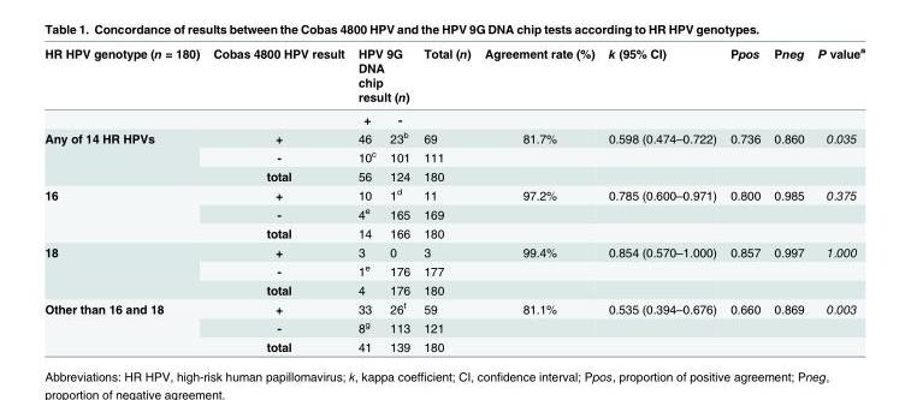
<table><thead><tr><td rowspan="2">HR HPV genotype (n = 180)</td><td rowspan="2">Cobas 4800 HPV result</td><td colspan="2">HPV 9G DNA chip result (n)</td><td rowspan="2">Total (n)</td><td rowspan="2">Agreement rate (%)</td><td rowspan="2">k (95% CI)</td><td rowspan="2">Ppos</td><td rowspan="2">Pneg</td><td rowspan="2">P value<sup>a</sup></td></tr><tr><td>+</td><td>-</td></tr></thead><tbody><tr><td rowspan="3">Any of 14 HR HPVs</td><td>+</td><td>46</td><td>23<sup>b</sup></td><td>69</td><td>81.7%</td><td>0.598 (0.474–0.722)</td><td>0.736</td><td>0.860</td><td>0.035</td></tr><tr><td>-</td><td>10<sup>c</sup></td><td>101</td><td>111</td><td></td><td></td><td></td><td></td><td></td></tr><tr><td>total</td><td>56</td><td>124</td><td>180</td><td></td><td></td><td></td><td></td><td></td></tr><tr><td rowspan="3">16</td><td>+</td><td>10</td><td>1<sup>d</sup></td><td>11</td><td>97.2%</td><td>0.785 (0.600–0.971)</td><td>0.800</td><td>0.985</td><td>0.375</td></tr><tr><td>-</td><td>4<sup>e</sup></td><td>165</td><td>169</td><td></td><td></td><td></td><td></td><td></td></tr><tr><td>total</td><td>14</td><td>166</td><td>180</td><td></td><td></td><td></td><td></td><td></td></tr><tr><td rowspan="3">18</td><td>+</td><td>3</td><td>0</td><td>3</td><td>99.4%</td><td>0.854 (0.570–1.000)</td><td>0.857</td><td>0.997</td><td>1.000</td></tr><tr><td>-</td><td>1<sup>e</sup></td><td>176</td><td>177</td><td></td><td></td><td></td><td></td><td></td></tr><tr><td>total</td><td>4</td><td>176</td><td>180</td><td></td><td></td><td></td><td></td><td></td></tr><tr><td rowspan="3">Other than 16 and 18</td><td>+</td><td>33</td><td>26<sup>f</sup></td><td>59</td><td>81.1%</td><td>0.535 (0.394–0.676)</td><td>0.660</td><td>0.869</td><td>0.003</td></tr><tr><td>-</td><td>8<sup>g</sup></td><td>113</td><td>121</td><td></td><td></td><td></td><td></td><td></td></tr><tr><td>total</td><td>41</td><td>139</td><td>180</td><td></td><td></td><td></td><td></td><td></td></tr></tbody></table>